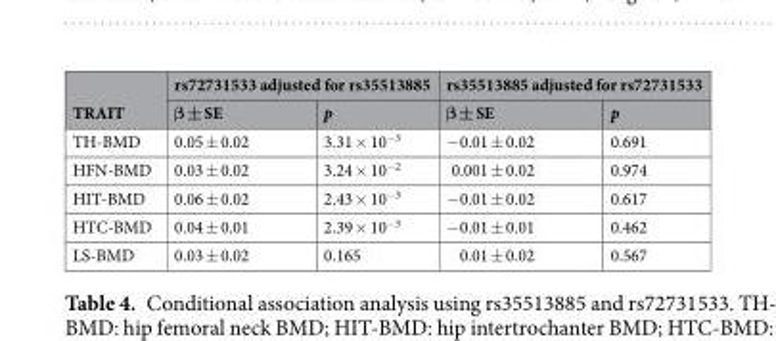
<table><thead><tr><td rowspan="2">TRAIT</td><td colspan="2">rs72731533 adjusted for rs35513885</td><td colspan="2">rs35513885 adjusted for rs72731533</td></tr><tr><td>β ± SE</td><td>p</td><td>β ± SE</td><td>p</td></tr></thead><tbody><tr><td>TH-BMD</td><td>0.05 ± 0.02</td><td>3.31 × 10<sup>−3</sup></td><td>−0.01 ± 0.02</td><td>0.691</td></tr><tr><td>HFN-BMD</td><td>0.03 ± 0.02</td><td>3.24 × 10<sup>−2</sup></td><td>0.001 ± 0.02</td><td>0.974</td></tr><tr><td>HIT-BMD</td><td>0.06 ± 0.02</td><td>2.43 × 10<sup>−3</sup></td><td>−0.01 ± 0.02</td><td>0.617</td></tr><tr><td>HTC-BMD</td><td>0.04 ± 0.01</td><td>2.39 × 10<sup>−3</sup></td><td>−0.01 ± 0.01</td><td>0.462</td></tr><tr><td>LS-BMD</td><td>0.03 ± 0.02</td><td>0.165</td><td>0.01 ± 0.02</td><td>0.567</td></tr></tbody></table>